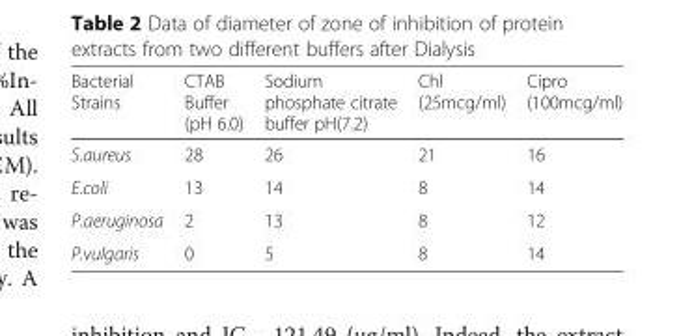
<table><thead><tr><td>Bacterial Strains</td><td>CTAB Buffer (pH 6.0)</td><td>Sodium phosphate citrate buffer pH(7.2)</td><td>Chl (25mcg/ml)</td><td>Cipro (100mcg/ml)</td></tr></thead><tbody><tr><td>S.aureus</td><td>28</td><td>26</td><td>21</td><td>16</td></tr><tr><td>E.coli</td><td>13</td><td>14</td><td>8</td><td>14</td></tr><tr><td>P.aeruginosa</td><td>2</td><td>13</td><td>8</td><td>12</td></tr><tr><td>P.vulgaris</td><td>0</td><td>5</td><td>8</td><td>14</td></tr></tbody></table>